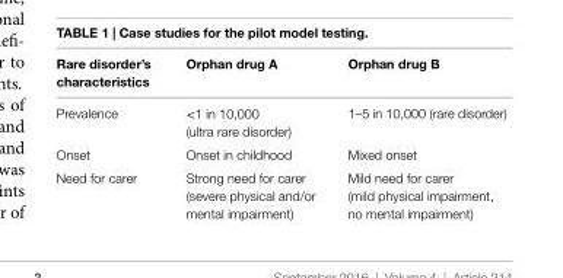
<table><thead><tr><td>rare disorder’s characteristics</td><td>Orphan drug a</td><td>Orphan drug B</td></tr></thead><tbody><tr><td>Prevalence</td><td>&lt;1 in 10,000 (ultra rare disorder)</td><td>1–5 in 10,000 (rare disorder)</td></tr><tr><td>Onset</td><td>Onset in childhood</td><td>Mixed onset</td></tr><tr><td>Need for carer</td><td>Strong need for carer (severe physical and/or mental impairment)</td><td>Mild need for carer (mild physical impairment, no mental impairment)</td></tr></tbody></table>